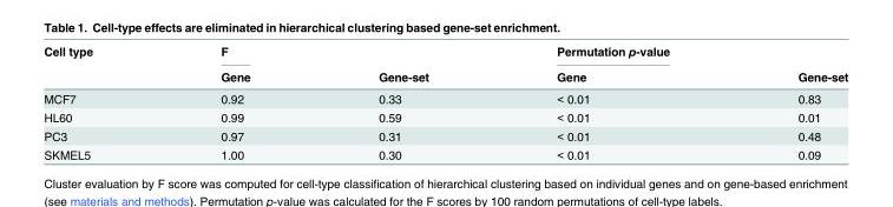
<table><thead><tr><td rowspan="2">Cell type</td><td rowspan="2">F Gene</td><td rowspan="2">Gene-set</td><td rowspan="2">Permutation p-value Gene</td><td rowspan="2">Gene-set</td></tr><tr></tr></thead><tbody><tr><td>MCF7</td><td>0.92</td><td>0.33</td><td>&lt; 0.01</td><td>0.83</td></tr><tr><td>HL60</td><td>0.99</td><td>0.59</td><td>&lt; 0.01</td><td>0.01</td></tr><tr><td>PC3</td><td>0.97</td><td>0.31</td><td>&lt; 0.01</td><td>0.48</td></tr><tr><td>SKMEL5</td><td>1.00</td><td>0.30</td><td>&lt; 0.01</td><td>0.09</td></tr></tbody></table>